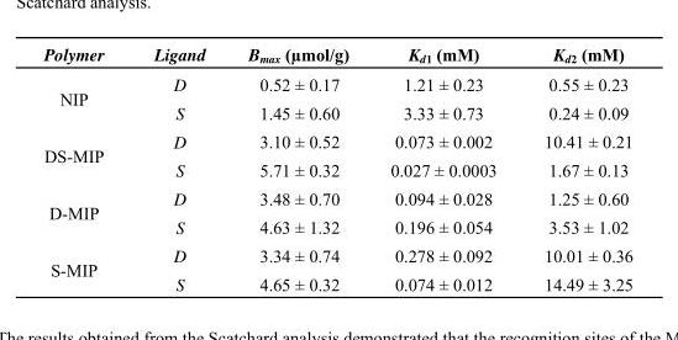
<table><thead><tr><td>Polymer</td><td>Ligand</td><td>B<sub>max</sub> (µmol/g)</td><td>K<sub>d1</sub> (mM)</td><td>K<sub>d2</sub> (mM)</td></tr></thead><tbody><tr><td rowspan="2">NIP</td><td>D</td><td>0.52 ± 0.17</td><td>1.21 ± 0.23</td><td>0.55 ± 0.23</td></tr><tr><td>S</td><td>1.45 ± 0.60</td><td>3.33 ± 0.73</td><td>0.24 ± 0.09</td></tr><tr><td rowspan="2">DS-MIP</td><td>D</td><td>3.10 ± 0.52</td><td>0.073 ± 0.002</td><td>10.41 ± 0.21</td></tr><tr><td>S</td><td>5.71 ± 0.32</td><td>0.027 ± 0.0003</td><td>1.67 ± 0.13</td></tr><tr><td rowspan="2">D-MIP</td><td>D</td><td>3.48 ± 0.70</td><td>0.094 ± 0.028</td><td>1.25 ± 0.60</td></tr><tr><td>S</td><td>4.63 ± 1.32</td><td>0.196 ± 0.054</td><td>3.53 ± 1.02</td></tr><tr><td rowspan="2">S-MIP</td><td>D</td><td>3.34 ± 0.74</td><td>0.278 ± 0.092</td><td>10.01 ± 0.36</td></tr><tr><td>S</td><td>4.65 ± 0.32</td><td>0.074 ± 0.012</td><td>14.49 ± 3.25</td></tr></tbody></table>